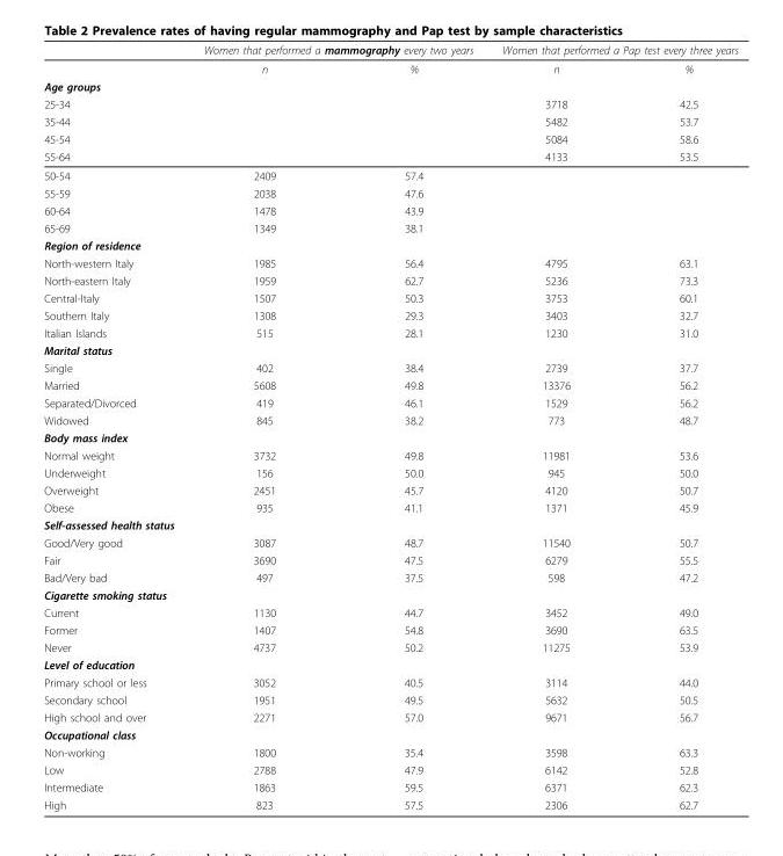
<table><thead><tr><td rowspan="2"></td><td colspan="2">Women that performed a mammography every two years</td><td colspan="2">Women that performed a Pap test every three years</td></tr><tr><td>n</td><td>%</td><td>n</td><td>%</td></tr></thead><tbody><tr><td colspan="5">Age groups</td></tr><tr><td>25-34</td><td></td><td></td><td>3718</td><td>42.5</td></tr><tr><td>35-44</td><td></td><td></td><td>5482</td><td>53.7</td></tr><tr><td>45-54</td><td></td><td></td><td>5084</td><td>58.6</td></tr><tr><td>55-64</td><td></td><td></td><td>4133</td><td>53.5</td></tr><tr><td>50-54</td><td>2409</td><td>57.4</td><td></td><td></td></tr><tr><td>55-59</td><td>2038</td><td>47.6</td><td></td><td></td></tr><tr><td>60-64</td><td>1478</td><td>43.9</td><td></td><td></td></tr><tr><td>65-69</td><td>1349</td><td>38.1</td><td></td><td></td></tr><tr><td colspan="5">Region of residence</td></tr><tr><td>North-western Italy</td><td>1985</td><td>56.4</td><td>4795</td><td>63.1</td></tr><tr><td>North-eastern Italy</td><td>1959</td><td>62.7</td><td>5236</td><td>73.3</td></tr><tr><td>Central-Italy</td><td>1507</td><td>50.3</td><td>3753</td><td>60.1</td></tr><tr><td>Southern Italy</td><td>1308</td><td>29.3</td><td>3403</td><td>32.7</td></tr><tr><td>Italian Islands</td><td>515</td><td>28.1</td><td>1230</td><td>31.0</td></tr><tr><td colspan="5">Marital status</td></tr><tr><td>Single</td><td>402</td><td>38.4</td><td>2739</td><td>37.7</td></tr><tr><td>Married</td><td>5608</td><td>49.8</td><td>13376</td><td>56.2</td></tr><tr><td>Separated/Divorced</td><td>419</td><td>46.1</td><td>1529</td><td>56.2</td></tr><tr><td>Widowed</td><td>845</td><td>38.2</td><td>773</td><td>48.7</td></tr><tr><td colspan="5">Body mass index</td></tr><tr><td>Normal weight</td><td>3732</td><td>49.8</td><td>11981</td><td>53.6</td></tr><tr><td>Underweight</td><td>156</td><td>50.0</td><td>945</td><td>50.0</td></tr><tr><td>Overweight</td><td>2451</td><td>45.7</td><td>4120</td><td>50.7</td></tr><tr><td>Obese</td><td>935</td><td>41.1</td><td>1371</td><td>45.9</td></tr><tr><td colspan="5">Self-assessed health status</td></tr><tr><td>Good/Very good</td><td>3087</td><td>48.7</td><td>11540</td><td>50.7</td></tr><tr><td>Fair</td><td>3690</td><td>47.5</td><td>6279</td><td>55.5</td></tr><tr><td>Bad/Very bad</td><td>497</td><td>37.5</td><td>598</td><td>47.2</td></tr><tr><td colspan="5">Cigarette smoking status</td></tr><tr><td>Current</td><td>1130</td><td>44.7</td><td>3452</td><td>49.0</td></tr><tr><td>Former</td><td>1407</td><td>54.8</td><td>3690</td><td>63.5</td></tr><tr><td>Never</td><td>4737</td><td>50.2</td><td>11275</td><td>53.9</td></tr><tr><td colspan="5">Level of education</td></tr><tr><td>Primary school or less</td><td>3052</td><td>40.5</td><td>3114</td><td>44.0</td></tr><tr><td>Secondary school</td><td>1951</td><td>49.5</td><td>5632</td><td>50.5</td></tr><tr><td>High school and over</td><td>2271</td><td>57.0</td><td>9671</td><td>56.7</td></tr><tr><td colspan="5">Occupational class</td></tr><tr><td>Non-working</td><td>1800</td><td>35.4</td><td>3598</td><td>63.3</td></tr><tr><td>Low</td><td>2788</td><td>47.9</td><td>6142</td><td>52.8</td></tr><tr><td>Intermediate</td><td>1863</td><td>59.5</td><td>6371</td><td>62.3</td></tr><tr><td>High</td><td>823</td><td>57.5</td><td>2306</td><td>62.7</td></tr></tbody></table>